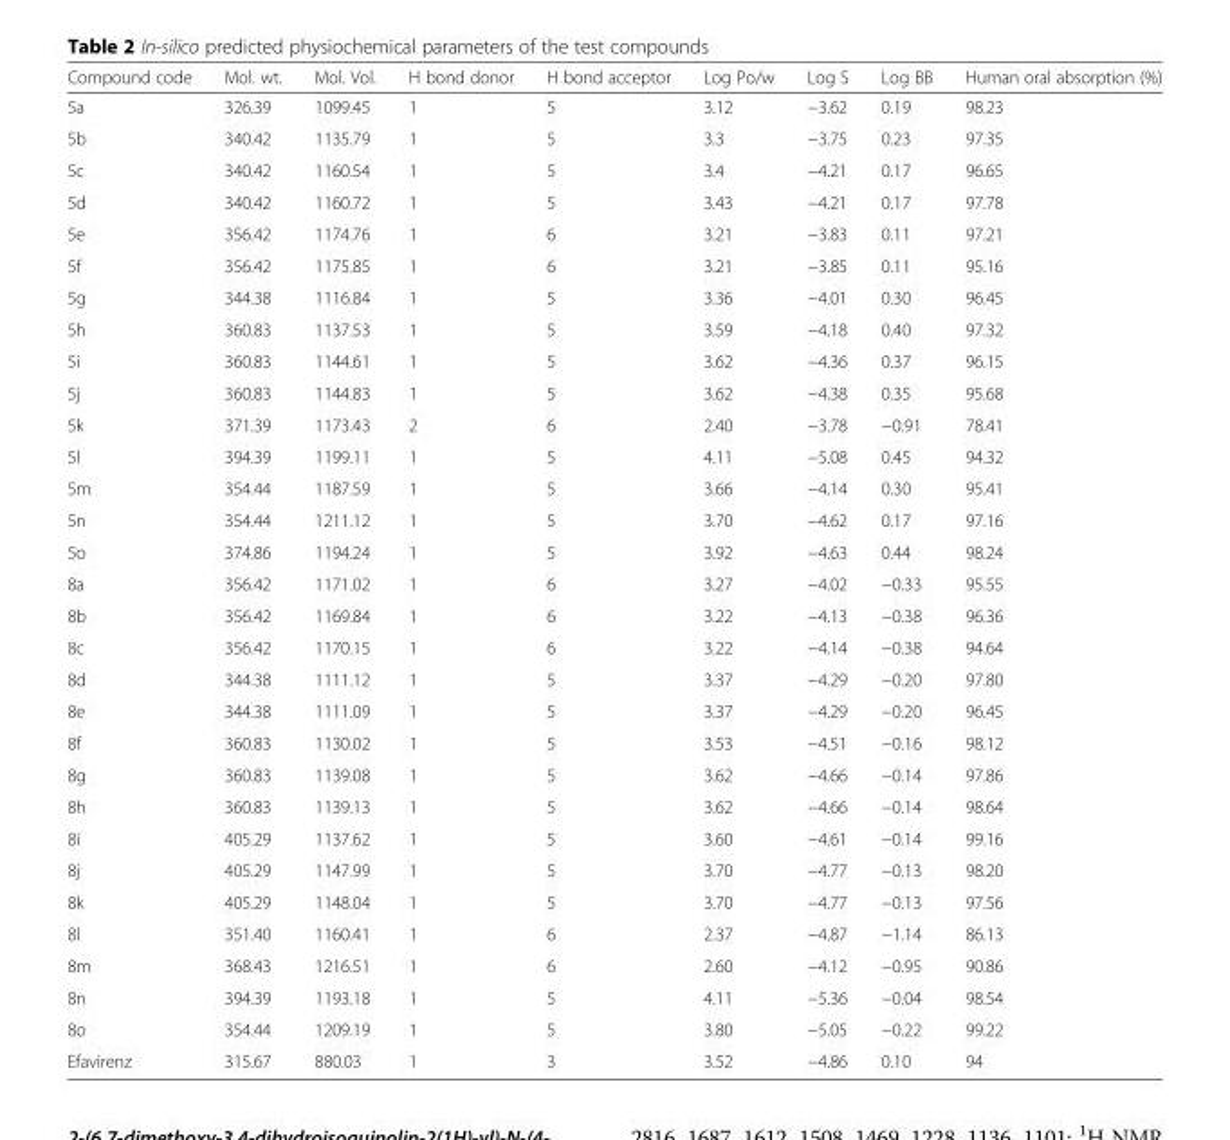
<table><thead><tr><td>Compound code</td><td>Mol. wt.</td><td>Mol. Vol.</td><td>H bond donor</td><td>H bond acceptor</td><td>Log Po/w</td><td>Log S</td><td>Log BB</td><td>Human oral absorption (%)</td></tr></thead><tbody><tr><td>5a</td><td>326.39</td><td>1099.45</td><td>1</td><td>5</td><td>3.12</td><td>−3.62</td><td>0.19</td><td>98.23</td></tr><tr><td>5b</td><td>340.42</td><td>1135.79</td><td>1</td><td>5</td><td>3.3</td><td>−3.75</td><td>0.23</td><td>97.35</td></tr><tr><td>5c</td><td>340.42</td><td>1160.54</td><td>1</td><td>5</td><td>3.4</td><td>−4.21</td><td>0.17</td><td>96.65</td></tr><tr><td>5d</td><td>340.42</td><td>1160.72</td><td>1</td><td>5</td><td>3.43</td><td>−4.21</td><td>0.17</td><td>97.78</td></tr><tr><td>5e</td><td>356.42</td><td>1174.76</td><td>1</td><td>6</td><td>3.21</td><td>−3.83</td><td>0.11</td><td>97.21</td></tr><tr><td>5f</td><td>356.42</td><td>1175.85</td><td>1</td><td>6</td><td>3.21</td><td>−3.85</td><td>0.11</td><td>95.16</td></tr><tr><td>5g</td><td>344.38</td><td>1116.84</td><td>1</td><td>5</td><td>3.36</td><td>−4.01</td><td>0.30</td><td>96.45</td></tr><tr><td>5h</td><td>360.83</td><td>1137.53</td><td>1</td><td>5</td><td>3.59</td><td>−4.18</td><td>0.40</td><td>97.32</td></tr><tr><td>5i</td><td>360.83</td><td>1144.61</td><td>1</td><td>5</td><td>3.62</td><td>−4.36</td><td>0.37</td><td>96.15</td></tr><tr><td>5j</td><td>360.83</td><td>1144.83</td><td>1</td><td>5</td><td>3.62</td><td>−4.38</td><td>0.35</td><td>95.68</td></tr><tr><td>5k</td><td>371.39</td><td>1173.43</td><td>2</td><td>6</td><td>2.40</td><td>−3.78</td><td>−0.91</td><td>78.41</td></tr><tr><td>5l</td><td>394.39</td><td>1199.11</td><td>1</td><td>5</td><td>4.11</td><td>−5.08</td><td>0.45</td><td>94.32</td></tr><tr><td>5m</td><td>354.44</td><td>1187.59</td><td>1</td><td>5</td><td>3.66</td><td>−4.14</td><td>0.30</td><td>95.41</td></tr><tr><td>5n</td><td>354.44</td><td>1211.12</td><td>1</td><td>5</td><td>3.70</td><td>−4.62</td><td>0.17</td><td>97.16</td></tr><tr><td>5o</td><td>374.86</td><td>1194.24</td><td>1</td><td>5</td><td>3.92</td><td>−4.63</td><td>0.44</td><td>98.24</td></tr><tr><td>8a</td><td>356.42</td><td>1171.02</td><td>1</td><td>6</td><td>3.27</td><td>−4.02</td><td>−0.33</td><td>95.55</td></tr><tr><td>8b</td><td>356.42</td><td>1169.84</td><td>1</td><td>6</td><td>3.22</td><td>−4.13</td><td>−0.38</td><td>96.36</td></tr><tr><td>8c</td><td>356.42</td><td>1170.15</td><td>1</td><td>6</td><td>3.22</td><td>−4.14</td><td>−0.38</td><td>94.64</td></tr><tr><td>8d</td><td>344.38</td><td>1111.12</td><td>1</td><td>5</td><td>3.37</td><td>−4.29</td><td>−0.20</td><td>97.80</td></tr><tr><td>8e</td><td>344.38</td><td>1111.09</td><td>1</td><td>5</td><td>3.37</td><td>−4.29</td><td>−0.20</td><td>96.45</td></tr><tr><td>8f</td><td>360.83</td><td>1130.02</td><td>1</td><td>5</td><td>3.53</td><td>−4.51</td><td>−0.16</td><td>98.12</td></tr><tr><td>8g</td><td>360.83</td><td>1139.08</td><td>1</td><td>5</td><td>3.62</td><td>−4.66</td><td>−0.14</td><td>97.86</td></tr><tr><td>8h</td><td>360.83</td><td>1139.13</td><td>1</td><td>5</td><td>3.62</td><td>−4.66</td><td>−0.14</td><td>98.64</td></tr><tr><td>8i</td><td>405.29</td><td>1137.62</td><td>1</td><td>5</td><td>3.60</td><td>−4.61</td><td>−0.14</td><td>99.16</td></tr><tr><td>8j</td><td>405.29</td><td>1147.99</td><td>1</td><td>5</td><td>3.70</td><td>−4.77</td><td>−0.13</td><td>98.20</td></tr><tr><td>8k</td><td>405.29</td><td>1148.04</td><td>1</td><td>5</td><td>3.70</td><td>−4.77</td><td>−0.13</td><td>97.56</td></tr><tr><td>8l</td><td>351.40</td><td>1160.41</td><td>1</td><td>6</td><td>2.37</td><td>−4.87</td><td>−1.14</td><td>86.13</td></tr><tr><td>8m</td><td>368.43</td><td>1216.51</td><td>1</td><td>6</td><td>2.60</td><td>−4.12</td><td>−0.95</td><td>90.86</td></tr><tr><td>8n</td><td>394.39</td><td>1193.18</td><td>1</td><td>5</td><td>4.11</td><td>−5.36</td><td>−0.04</td><td>98.54</td></tr><tr><td>8o</td><td>354.44</td><td>1209.19</td><td>1</td><td>5</td><td>3.80</td><td>−5.05</td><td>−0.22</td><td>99.22</td></tr><tr><td>Efavirenz</td><td>315.67</td><td>880.03</td><td>1</td><td>3</td><td>3.52</td><td>−4.86</td><td>0.10</td><td>94</td></tr></tbody></table>